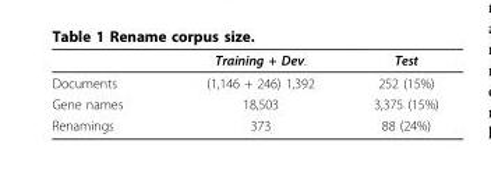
<table><thead><tr><td></td><td>Training + Dev.</td><td>Test</td></tr></thead><tbody><tr><td>Documents</td><td>(1,146 + 246) 1,392</td><td>252 (15%)</td></tr><tr><td>Gene names</td><td>18,503</td><td>3,375 (15%)</td></tr><tr><td>Renamings</td><td>373</td><td>88 (24%)</td></tr></tbody></table>